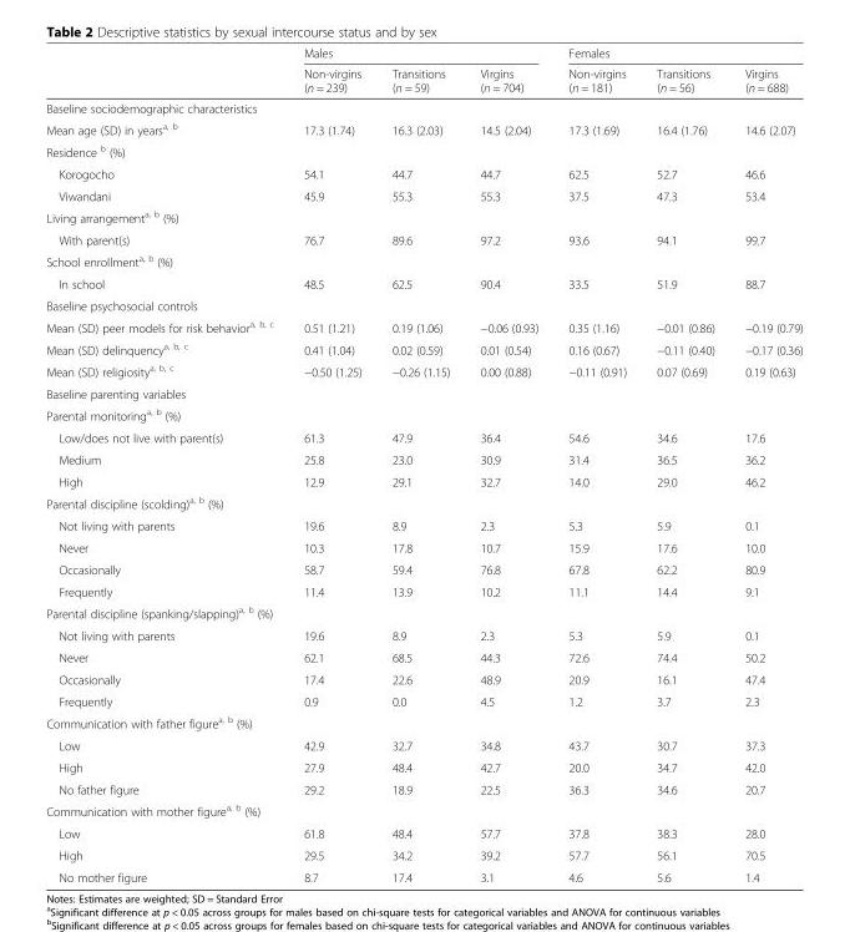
<table><thead><tr><td rowspan="2"></td><td colspan="3">Males</td><td colspan="3">Females</td></tr><tr><td>Non-virgins (n = 239)</td><td>Transitions (n = 59)</td><td>Virgins (n = 704)</td><td>Non-virgins (n = 181)</td><td>Transitions (n = 56)</td><td>Virgins (n = 688)</td></tr></thead><tbody><tr><td colspan="7">Baseline sociodemographic characteristics</td></tr><tr><td>Mean age (SD) in years<sup>a, b</sup></td><td>17.3 (1.74)</td><td>16.3 (2.03)</td><td>14.5 (2.04)</td><td>17.3 (1.69)</td><td>16.4 (1.76)</td><td>14.6 (2.07)</td></tr><tr><td colspan="7">Residence <sup>b</sup> (%)</td></tr><tr><td>Korogocho</td><td>54.1</td><td>44.7</td><td>44.7</td><td>62.5</td><td>52.7</td><td>46.6</td></tr><tr><td>Viwandani</td><td>45.9</td><td>55.3</td><td>55.3</td><td>37.5</td><td>47.3</td><td>53.4</td></tr><tr><td colspan="7">Living arrangement<sup>a, b</sup> (%)</td></tr><tr><td>With parent(s)</td><td>76.7</td><td>89.6</td><td>97.2</td><td>93.6</td><td>94.1</td><td>99.7</td></tr><tr><td colspan="7">School enrollment<sup>a, b</sup> (%)</td></tr><tr><td>In school</td><td>48.5</td><td>62.5</td><td>90.4</td><td>33.5</td><td>51.9</td><td>88.7</td></tr><tr><td colspan="7">Baseline psychosocial controls</td></tr><tr><td>Mean (SD) peer models for risk behavior<sup>a, b, c</sup></td><td>0.51 (1.21)</td><td>0.19 (1.06)</td><td>−0.06 (0.93)</td><td>0.35 (1.16)</td><td>−0.01 (0.86)</td><td>−0.19 (0.79)</td></tr><tr><td>Mean (SD) delinquency<sup>a, b, c</sup></td><td>0.41 (1.04)</td><td>0.02 (0.59)</td><td>0.01 (0.54)</td><td>0.16 (0.67)</td><td>−0.11 (0.40)</td><td>−0.17 (0.36)</td></tr><tr><td>Mean (SD) religiosity<sup>a, b, c</sup></td><td>−0.50 (1.25)</td><td>−0.26 (1.15)</td><td>0.00 (0.88)</td><td>−0.11 (0.91)</td><td>0.07 (0.69)</td><td>0.19 (0.63)</td></tr><tr><td colspan="7">Baseline parenting variables</td></tr><tr><td colspan="7">Parental monitoring<sup>a, b</sup> (%)</td></tr><tr><td>Low/does not live with parent(s)</td><td>61.3</td><td>47.9</td><td>36.4</td><td>54.6</td><td>34.6</td><td>17.6</td></tr><tr><td>Medium</td><td>25.8</td><td>23.0</td><td>30.9</td><td>31.4</td><td>36.5</td><td>36.2</td></tr><tr><td>High</td><td>12.9</td><td>29.1</td><td>32.7</td><td>14.0</td><td>29.0</td><td>46.2</td></tr><tr><td colspan="7">Parental discipline (scolding)<sup>a, b</sup> (%)</td></tr><tr><td>Not living with parents</td><td>19.6</td><td>8.9</td><td>2.3</td><td>5.3</td><td>5.9</td><td>0.1</td></tr><tr><td>Never</td><td>10.3</td><td>17.8</td><td>10.7</td><td>15.9</td><td>17.6</td><td>10.0</td></tr><tr><td>Occasionally</td><td>58.7</td><td>59.4</td><td>76.8</td><td>67.8</td><td>62.2</td><td>80.9</td></tr><tr><td>Frequently</td><td>11.4</td><td>13.9</td><td>10.2</td><td>11.1</td><td>14.4</td><td>9.1</td></tr><tr><td colspan="7">Parental discipline (spanking/slapping)<sup>a, b</sup> (%)</td></tr><tr><td>Not living with parents</td><td>19.6</td><td>8.9</td><td>2.3</td><td>5.3</td><td>5.9</td><td>0.1</td></tr><tr><td>Never</td><td>62.1</td><td>68.5</td><td>44.3</td><td>72.6</td><td>74.4</td><td>50.2</td></tr><tr><td>Occasionally</td><td>17.4</td><td>22.6</td><td>48.9</td><td>20.9</td><td>16.1</td><td>47.4</td></tr><tr><td>Frequently</td><td>0.9</td><td>0.0</td><td>4.5</td><td>1.2</td><td>3.7</td><td>2.3</td></tr><tr><td colspan="7">Communication with father figure<sup>a, b</sup> (%)</td></tr><tr><td>Low</td><td>42.9</td><td>32.7</td><td>34.8</td><td>43.7</td><td>30.7</td><td>37.3</td></tr><tr><td>High</td><td>27.9</td><td>48.4</td><td>42.7</td><td>20.0</td><td>34.7</td><td>42.0</td></tr><tr><td>No father figure</td><td>29.2</td><td>18.9</td><td>22.5</td><td>36.3</td><td>34.6</td><td>20.7</td></tr><tr><td colspan="7">Communication with mother figure<sup>a, b</sup> (%)</td></tr><tr><td>Low</td><td>61.8</td><td>48.4</td><td>57.7</td><td>37.8</td><td>38.3</td><td>28.0</td></tr><tr><td>High</td><td>29.5</td><td>34.2</td><td>39.2</td><td>57.7</td><td>56.1</td><td>70.5</td></tr><tr><td>No mother figure</td><td>8.7</td><td>17.4</td><td>3.1</td><td>4.6</td><td>5.6</td><td>1.4</td></tr></tbody></table>